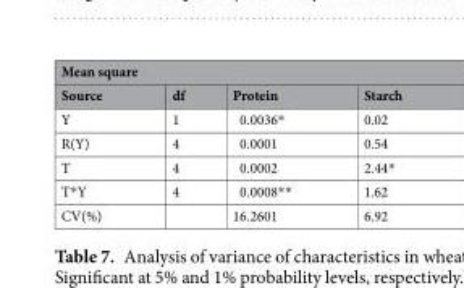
<table><thead><tr><td colspan="4">Mean square</td></tr><tr><td>Source</td><td>df</td><td>Protein</td><td>Starch</td></tr></thead><tbody><tr><td>Y</td><td>1</td><td>0.0036*</td><td>0.02</td></tr><tr><td>R(Y)</td><td>4</td><td>0.0001</td><td>0.54</td></tr><tr><td>T</td><td>4</td><td>0.0002</td><td>2.44*</td></tr><tr><td>T*Y</td><td>4</td><td>0.0008**</td><td>1.62</td></tr><tr><td>CV(%)</td><td></td><td>16.2601</td><td>6.92</td></tr></tbody></table>